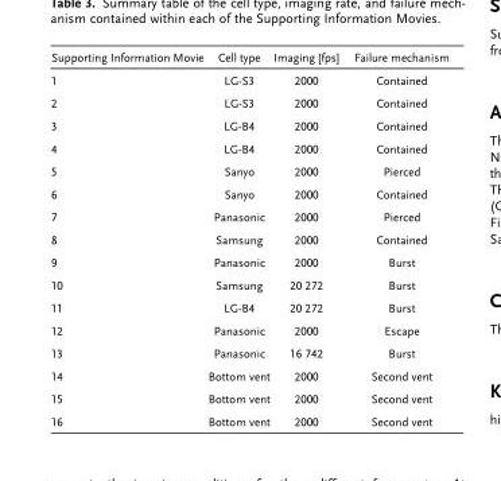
<table><thead><tr><td>Supporting Information Movie</td><td>Cell type</td><td>Imaging [fps]</td><td>Failure mechanism</td></tr></thead><tbody><tr><td>1</td><td>LG-S3</td><td>2000</td><td>Contained</td></tr><tr><td>2</td><td>LG-S3</td><td>2000</td><td>Contained</td></tr><tr><td>3</td><td>LG-B4</td><td>2000</td><td>Contained</td></tr><tr><td>4</td><td>LG-B4</td><td>2000</td><td>Contained</td></tr><tr><td>5</td><td>Sanyo</td><td>2000</td><td>Pierced</td></tr><tr><td>6</td><td>Sanyo</td><td>2000</td><td>Contained</td></tr><tr><td>7</td><td>Panasonic</td><td>2000</td><td>Pierced</td></tr><tr><td>8</td><td>Samsung</td><td>2000</td><td>Contained</td></tr><tr><td>9</td><td>Panasonic</td><td>2000</td><td>Burst</td></tr><tr><td>10</td><td>Samsung</td><td>20 272</td><td>Burst</td></tr><tr><td>11</td><td>LG-B4</td><td>20 272</td><td>Burst</td></tr><tr><td>12</td><td>Panasonic</td><td>2000</td><td>Escape</td></tr><tr><td>13</td><td>Panasonic</td><td>16 742</td><td>Burst</td></tr><tr><td>14</td><td>Bottom vent</td><td>2000</td><td>Second vent</td></tr><tr><td>15</td><td>Bottom vent</td><td>2000</td><td>Second vent</td></tr><tr><td>16</td><td>Bottom vent</td><td>2000</td><td>Second vent</td></tr></tbody></table>